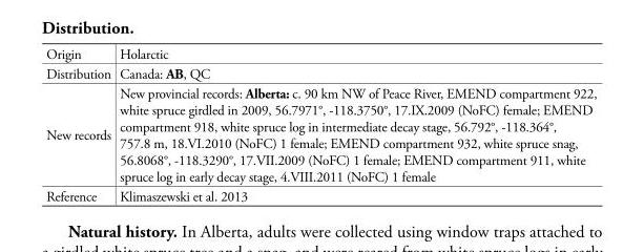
<table><tbody><tr><td>Origin</td><td>Holarctic</td></tr><tr><td>Distribution</td><td>Canada: AB, QC</td></tr><tr><td>New records</td><td>New provincial records: Alberta: c. 90 km NW of Peace River, EMEND compartment 922, white spruce girdled in 2009, 56.7971°, -118.3750°, 17.IX.2009 (NoFC) female; EMEND compartment 918, white spruce log in intermediate decay stage, 56.792°, -118.364°, 757.8 m, 18.VI.2010 (NoFC) 1 female; EMEND compartment 932, white spruce snag, 56.8068°, -118.3290°, 17.VII.2009 (NoFC) 1 female; EMEND compartment 911, white spruce log in early decay stage, 4.VIII.2011 (NoFC) 1 female</td></tr><tr><td>Reference</td><td>Klimaszewski et al. 2013</td></tr></tbody></table>